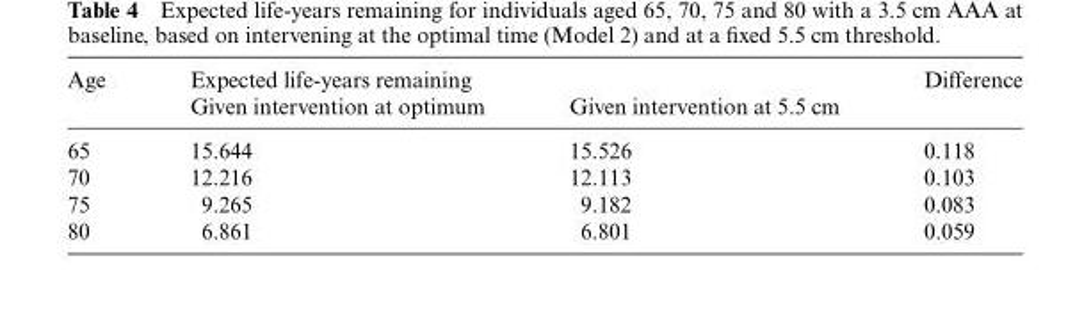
<table><thead><tr><td rowspan="2">Age</td><td colspan="2">Expected life-years remaining</td><td rowspan="2">Difference</td></tr><tr><td>Given intervention at optimum</td><td>Given intervention at 5.5 cm</td></tr></thead><tbody><tr><td>65</td><td>15.644</td><td>15.526</td><td>0.118</td></tr><tr><td>70</td><td>12.216</td><td>12.113</td><td>0.103</td></tr><tr><td>75</td><td>9.265</td><td>9.182</td><td>0.083</td></tr><tr><td>80</td><td>6.861</td><td>6.801</td><td>0.059</td></tr></tbody></table>